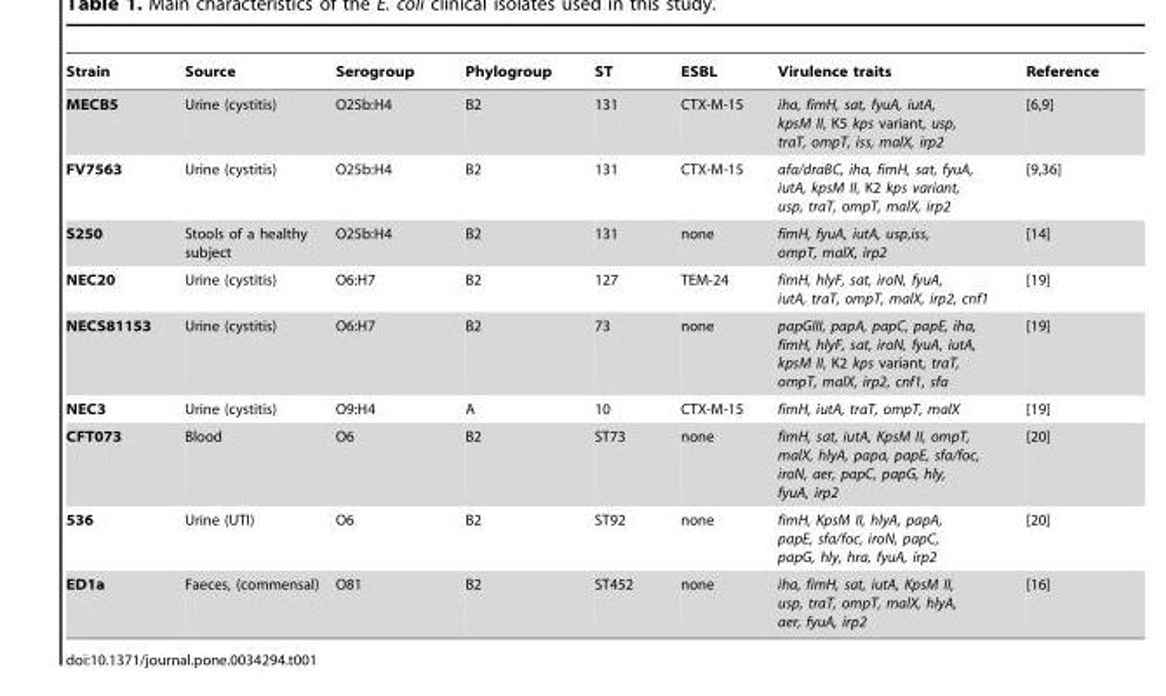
<table><thead><tr><td>Strain</td><td>Source</td><td>Serogroup</td><td>Phylogroup</td><td>ST</td><td>ESBL</td><td>Virulence traits</td><td>Reference</td></tr></thead><tbody><tr><td>MECB5</td><td>Urine (cystitis)</td><td>O25b:H4</td><td>B2</td><td>131</td><td>CTX-M-15</td><td>iha, fimH, sat, fyuA, iutA, kpsM II, K5 kps variant, usp, traT, ompT, iss, malX, irp2</td><td>[6,9]</td></tr><tr><td>FV7563</td><td>Urine (cystitis)</td><td>O25b:H4</td><td>B2</td><td>131</td><td>CTX-M-15</td><td>afa/draBC, iha, fimH, sat, fyuA, iutA, kpsM II, K2 kps variant, usp, traT, ompT, malX, irp2</td><td>[9,36]</td></tr><tr><td>S250</td><td>Stools of a healthy subject</td><td>O25b:H4</td><td>B2</td><td>131</td><td>none</td><td>fimH, fyuA, iutA, usp,iss, ompT, malX, irp2</td><td>[14]</td></tr><tr><td>NEC20</td><td>Urine (cystitis)</td><td>O6:H7</td><td>B2</td><td>127</td><td>TEM-24</td><td>fimH, hlyF, sat, iroN, fyuA, iutA, traT, ompT, malX, irp2, cnf1</td><td>[19]</td></tr><tr><td>NECS81153</td><td>Urine (cystitis)</td><td>O6:H7</td><td>B2</td><td>73</td><td>none</td><td>papGIII, papA, papC, papE, iha, fimH, hlyF, sat, iroN, fyuA, iutA, kpsM II, K2 kps variant, traT, ompT, malX, irp2, cnf1, sfa</td><td>[19]</td></tr><tr><td>NEC3</td><td>Urine (cystitis)</td><td>O9:H4</td><td>A</td><td>10</td><td>CTX-M-15</td><td>fimH, iutA, traT, ompT, malX</td><td>[19]</td></tr><tr><td>CFT073</td><td>Blood</td><td>O6</td><td>B2</td><td>ST73</td><td>none</td><td>fimH, sat, iutA, KpsM II, ompT, malX, hlyA, papa, papE, sfa/foc, iroN, aer, papC, papG, hly, fyuA, irp2</td><td>[20]</td></tr><tr><td>536</td><td>Urine (UTI)</td><td>O6</td><td>B2</td><td>ST92</td><td>none</td><td>fimH, KpsM II, hlyA, papA, papE, sfa/foc, iroN, papC, papG, hly, hra, fyuA, irp2</td><td>[20]</td></tr><tr><td>ED1a</td><td>Faeces, (commensal)</td><td>O81</td><td>B2</td><td>ST452</td><td>none</td><td>iha, fimH, sat, iutA, KpsM II, usp, traT, ompT, malX, hlyA, aer, fyuA, irp2</td><td>[16]</td></tr></tbody></table>